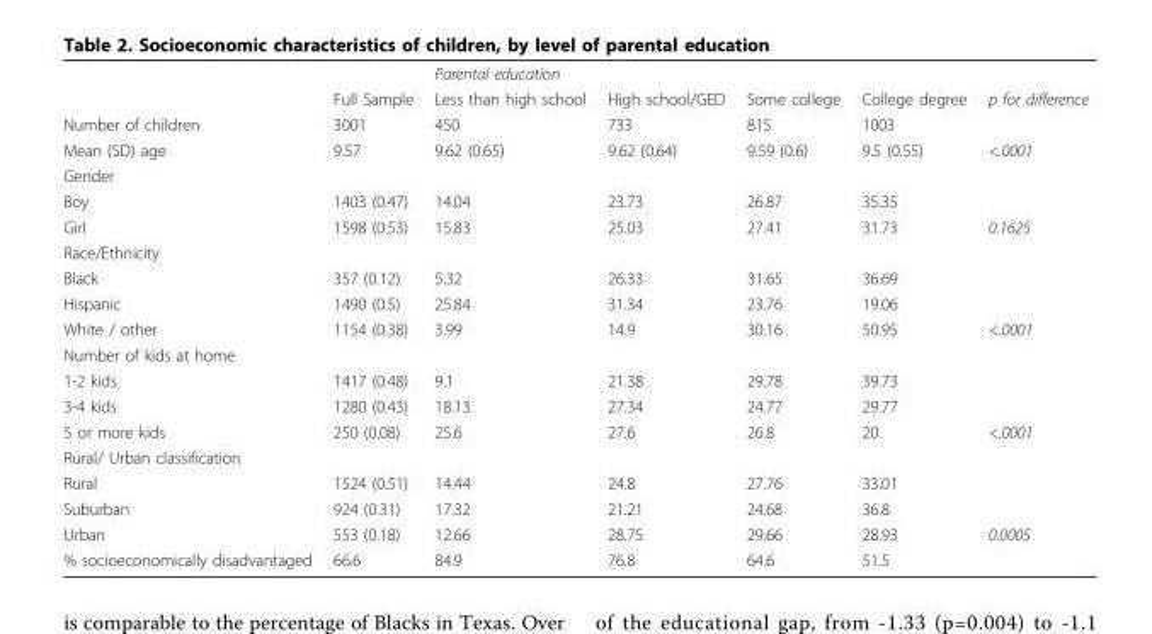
<table><thead><tr><td rowspan="2"></td><td rowspan="2">Full Sample</td><td colspan="5">Parental education</td></tr><tr><td>Less than high school</td><td>High school/GED</td><td>Some college</td><td>College degree</td><td>p for difference</td></tr></thead><tbody><tr><td>Number of children</td><td>3001</td><td>450</td><td>733</td><td>815</td><td>1003</td><td></td></tr><tr><td>Mean (SD) age</td><td>9.57</td><td>9.62 (0.65)</td><td>9.62 (0.64)</td><td>9.59 (0.6)</td><td>9.5 (0.55)</td><td>&lt;.0001</td></tr><tr><td colspan="7">Gender</td></tr><tr><td>Boy</td><td>1403 (0.47)</td><td>14.04</td><td>23.73</td><td>26.87</td><td>35.35</td><td></td></tr><tr><td>Girl</td><td>1598 (0.53)</td><td>15.83</td><td>25.03</td><td>27.41</td><td>31.73</td><td>0.1625</td></tr><tr><td colspan="7">Race/Ethnicity</td></tr><tr><td>Black</td><td>357 (0.12)</td><td>5.32</td><td>26.33</td><td>31.65</td><td>36.69</td><td></td></tr><tr><td>Hispanic</td><td>1490 (0.5)</td><td>25.84</td><td>31.34</td><td>23.76</td><td>19.06</td><td></td></tr><tr><td>White / other</td><td>1154 (0.38)</td><td>3.99</td><td>14.9</td><td>30.16</td><td>50.95</td><td>&lt;.0001</td></tr><tr><td colspan="7">Number of kids at home</td></tr><tr><td>1-2 kids</td><td>1417 (0.48)</td><td>9.1</td><td>21.38</td><td>29.78</td><td>39.73</td><td></td></tr><tr><td>3-4 kids</td><td>1280 (0.43)</td><td>18.13</td><td>27.34</td><td>24.77</td><td>29.77</td><td></td></tr><tr><td>5 or more kids</td><td>250 (0.08)</td><td>25.6</td><td>27.6</td><td>26.8</td><td>20</td><td>&lt;.0001</td></tr><tr><td colspan="7">Rural/ Urban classification</td></tr><tr><td>Rural</td><td>1524 (0.51)</td><td>14.44</td><td>24.8</td><td>27.76</td><td>33.01</td><td></td></tr><tr><td>Suburban</td><td>924 (0.31)</td><td>17.32</td><td>21.21</td><td>24.68</td><td>36.8</td><td></td></tr><tr><td>Urban</td><td>553 (0.18)</td><td>12.66</td><td>28.75</td><td>29.66</td><td>28.93</td><td>0.0005</td></tr><tr><td>% socioeconomically disadvantaged</td><td>66.6</td><td>84.9</td><td>76.8</td><td>64.6</td><td>51.5</td><td></td></tr></tbody></table>